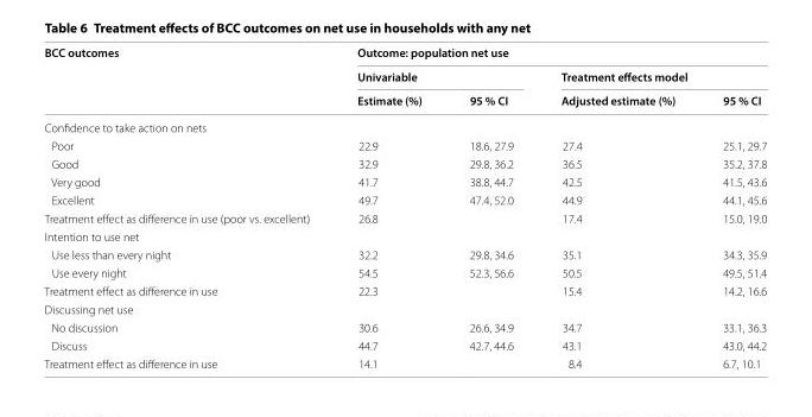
<table><thead><tr><td rowspan="3">BCC outcomes</td><td colspan="4">Outcome: population net use</td></tr><tr><td colspan="2">Univariable</td><td colspan="2">Treatment effects model</td></tr><tr><td>Estimate (%)</td><td>95 % CI</td><td>Adjusted estimate (%)</td><td>95 % CI</td></tr></thead><tbody><tr><td colspan="5">Confidence to take action on nets</td></tr><tr><td>Poor</td><td>22.9</td><td>18.6, 27.9</td><td>27.4</td><td>25.1, 29.7</td></tr><tr><td>Good</td><td>32.9</td><td>29.8, 36.2</td><td>36.5</td><td>35.2, 37.8</td></tr><tr><td>Very good</td><td>41.7</td><td>38.8, 44.7</td><td>42.5</td><td>41.5, 43.6</td></tr><tr><td>Excellent</td><td>49.7</td><td>47.4, 52.0</td><td>44.9</td><td>44.1, 45.6</td></tr><tr><td>Treatment effect as difference in use (poor vs. excellent)</td><td>26.8</td><td></td><td>17.4</td><td>15.0, 19.0</td></tr><tr><td colspan="5">Intention to use net</td></tr><tr><td>Use less than every night</td><td>32.2</td><td>29.8, 34.6</td><td>35.1</td><td>34.3, 35.9</td></tr><tr><td>Use every night</td><td>54.5</td><td>52.3, 56.6</td><td>50.5</td><td>49.5, 51.4</td></tr><tr><td>Treatment effect as difference in use</td><td>22.3</td><td></td><td>15.4</td><td>14.2, 16.6</td></tr><tr><td colspan="5">Discussing net use</td></tr><tr><td>No discussion</td><td>30.6</td><td>26.6, 34.9</td><td>34.7</td><td>33.1, 36.3</td></tr><tr><td>Discuss</td><td>44.7</td><td>42.7, 44.6</td><td>43.1</td><td>43.0, 44.2</td></tr><tr><td>Treatment effect as difference in use</td><td>14.1</td><td></td><td>8.4</td><td>6.7, 10.1</td></tr></tbody></table>